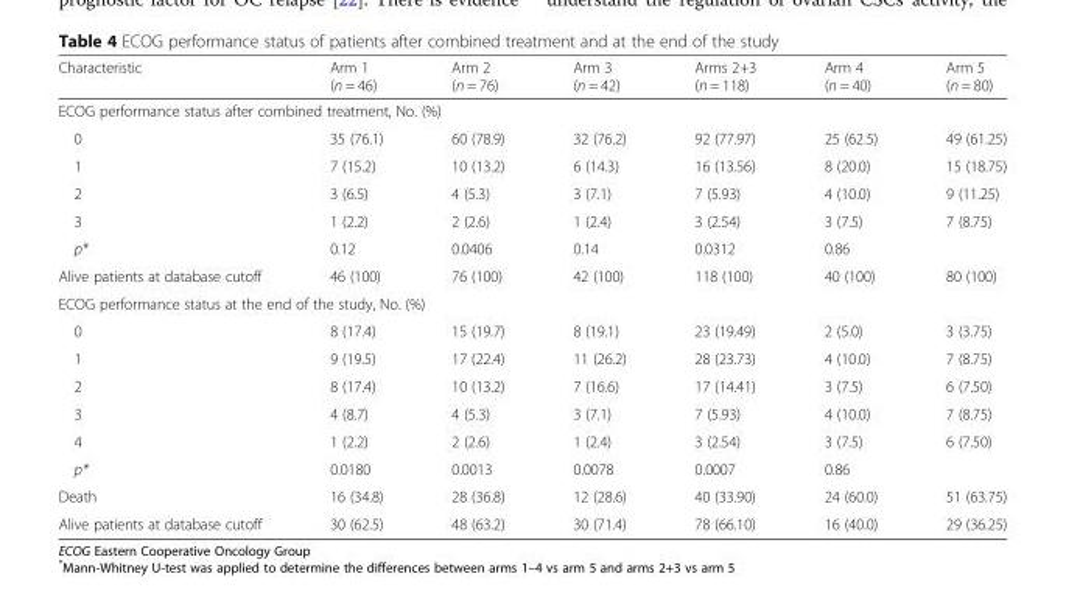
<table><thead><tr><td>Characteristic</td><td>Arm 1 (n = 46)</td><td>Arm 2 (n = 76)</td><td>Arm 3 (n = 42)</td><td>Arms 2+3 (n = 118)</td><td>Arm 4 (n = 40)</td><td>Arm 5 (n = 80)</td></tr></thead><tbody><tr><td colspan="7">ECOG performance status after combined treatment, No. (%)</td></tr><tr><td>0</td><td>35 (76.1)</td><td>60 (78.9)</td><td>32 (76.2)</td><td>92 (77.97)</td><td>25 (62.5)</td><td>49 (61.25)</td></tr><tr><td>1</td><td>7 (15.2)</td><td>10 (13.2)</td><td>6 (14.3)</td><td>16 (13.56)</td><td>8 (20.0)</td><td>15 (18.75)</td></tr><tr><td>2</td><td>3 (6.5)</td><td>4 (5.3)</td><td>3 (7.1)</td><td>7 (5.93)</td><td>4 (10.0)</td><td>9 (11.25)</td></tr><tr><td>3</td><td>1 (2.2)</td><td>2 (2.6)</td><td>1 (2.4)</td><td>3 (2.54)</td><td>3 (7.5)</td><td>7 (8.75)</td></tr><tr><td>p*</td><td>0.12</td><td>0.0406</td><td>0.14</td><td>0.0312</td><td>0.86</td><td></td></tr><tr><td>Alive patients at database cutoff</td><td>46 (100)</td><td>76 (100)</td><td>42 (100)</td><td>118 (100)</td><td>40 (100)</td><td>80 (100)</td></tr><tr><td colspan="7">ECOG performance status at the end of the study, No. (%)</td></tr><tr><td>0</td><td>8 (17.4)</td><td>15 (19.7)</td><td>8 (19.1)</td><td>23 (19.49)</td><td>2 (5.0)</td><td>3 (3.75)</td></tr><tr><td>1</td><td>9 (19.5)</td><td>17 (22.4)</td><td>11 (26.2)</td><td>28 (23.73)</td><td>4 (10.0)</td><td>7 (8.75)</td></tr><tr><td>2</td><td>8 (17.4)</td><td>10 (13.2)</td><td>7 (16.6)</td><td>17 (14.41)</td><td>3 (7.5)</td><td>6 (7.50)</td></tr><tr><td>3</td><td>4 (8.7)</td><td>4 (5.3)</td><td>3 (7.1)</td><td>7 (5.93)</td><td>4 (10.0)</td><td>7 (8.75)</td></tr><tr><td>4</td><td>1 (2.2)</td><td>2 (2.6)</td><td>1 (2.4)</td><td>3 (2.54)</td><td>3 (7.5)</td><td>6 (7.50)</td></tr><tr><td>p*</td><td>0.0180</td><td>0.0013</td><td>0.0078</td><td>0.0007</td><td>0.86</td><td></td></tr><tr><td>Death</td><td>16 (34.8)</td><td>28 (36.8)</td><td>12 (28.6)</td><td>40 (33.90)</td><td>24 (60.0)</td><td>51 (63.75)</td></tr><tr><td>Alive patients at database сutoff</td><td>30 (62.5)</td><td>48 (63.2)</td><td>30 (71.4)</td><td>78 (66.10)</td><td>16 (40.0)</td><td>29 (36.25)</td></tr></tbody></table>